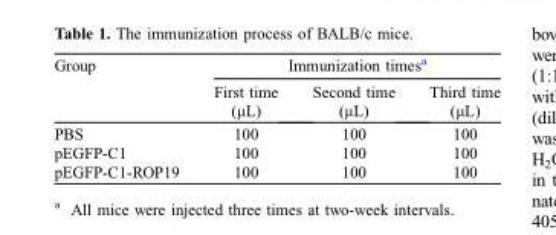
<table><thead><tr><td rowspan="2">Group</td><td colspan="3">Immunization times<sup>a</sup></td></tr><tr><td>First time (μL)</td><td>Second time (μL)</td><td>Third time (μL)</td></tr></thead><tbody><tr><td>PBS</td><td>100</td><td>100</td><td>100</td></tr><tr><td>pEGFP-C1</td><td>100</td><td>100</td><td>100</td></tr><tr><td>pEGFP-C1-ROP19</td><td>100</td><td>100</td><td>100</td></tr></tbody></table>